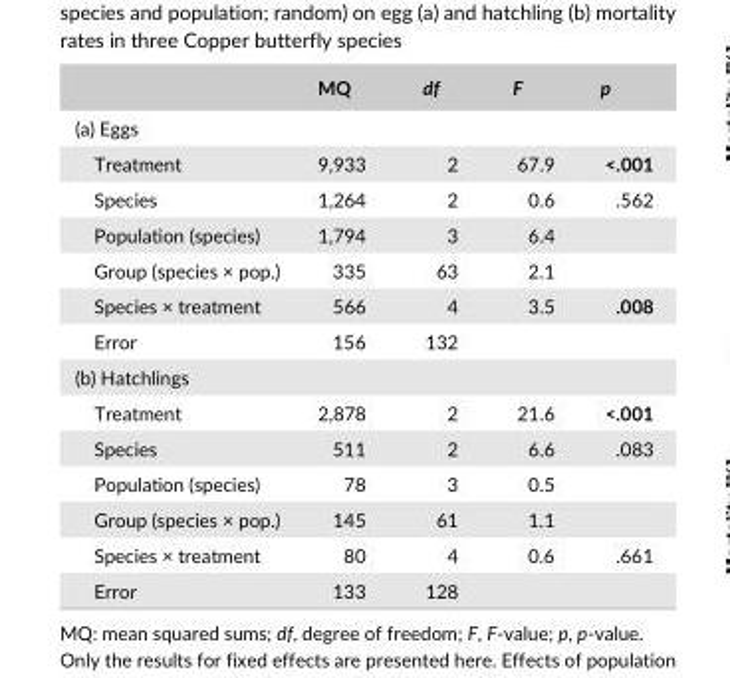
<table><thead><tr><td></td><td>MQ</td><td>df</td><td>F</td><td>p</td></tr></thead><tbody><tr><td colspan="5">(a) Eggs</td></tr><tr><td>Treatment</td><td>9,933</td><td>2</td><td>67.9</td><td>&lt;.001</td></tr><tr><td>Species</td><td>1,264</td><td>2</td><td>0.6</td><td>.562</td></tr><tr><td>Population (species)</td><td>1,794</td><td>3</td><td>6.4</td><td></td></tr><tr><td>Group (species × pop.)</td><td>335</td><td>63</td><td>2.1</td><td></td></tr><tr><td>Species × treatment</td><td>566</td><td>4</td><td>3.5</td><td>.008</td></tr><tr><td>Error</td><td>156</td><td>132</td><td></td><td></td></tr><tr><td colspan="5">(b) Hatchlings</td></tr><tr><td>Treatment</td><td>2,878</td><td>2</td><td>21.6</td><td>&lt;.001</td></tr><tr><td>Species</td><td>511</td><td>2</td><td>6.6</td><td>.083</td></tr><tr><td>Population (species)</td><td>78</td><td>3</td><td>0.5</td><td></td></tr><tr><td>Group (species × pop.)</td><td>145</td><td>61</td><td>1.1</td><td></td></tr><tr><td>Species × treatment</td><td>80</td><td>4</td><td>0.6</td><td>.661</td></tr><tr><td>Error</td><td>133</td><td>128</td><td></td><td></td></tr></tbody></table>